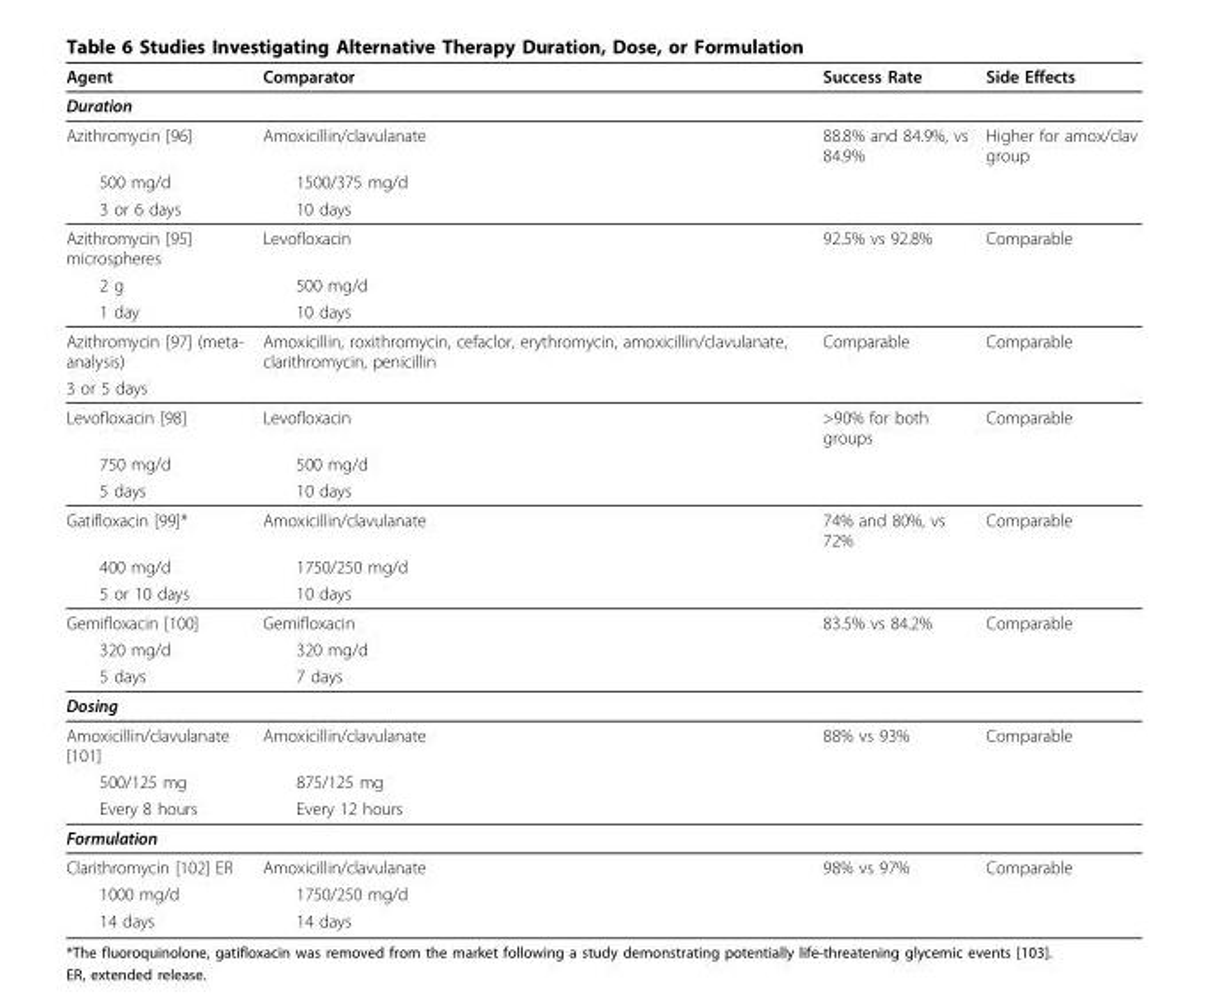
<table><thead><tr><td>Agent</td><td>Comparator</td><td>Success Rate</td><td>Side Effects</td></tr></thead><tbody><tr><td colspan="4">Duration</td></tr><tr><td>Azithromycin [96]</td><td>Amoxicillin/clavulanate</td><td>88.8% and 84.9%, vs 84.9%</td><td>Higher for amox/clav group</td></tr><tr><td>500 mg/d</td><td>1500/375 mg/d</td><td></td><td></td></tr><tr><td>3 or 6 days</td><td>10 days</td><td></td><td></td></tr><tr><td>Azithromycin [95] microspheres</td><td>Levofloxacin</td><td>92.5% vs 92.8%</td><td>Comparable</td></tr><tr><td>2 g</td><td>500 mg/d</td><td></td><td></td></tr><tr><td>1 day</td><td>10 days</td><td></td><td></td></tr><tr><td>Azithromycin [97] (meta- analysis)</td><td>Amoxicillin, roxithromycin, cefaclor, erythromycin, amoxicillin/clavulanate, clarithromycin, penicillin</td><td>Comparable</td><td>Comparable</td></tr><tr><td colspan="4">3 or 5 days</td></tr><tr><td>Levofloxacin [98]</td><td>Levofloxacin</td><td>&gt;90% for both groups</td><td>Comparable</td></tr><tr><td>750 mg/d</td><td>500 mg/d</td><td></td><td></td></tr><tr><td>5 days</td><td>10 days</td><td></td><td></td></tr><tr><td>Gatifloxacin [99]*</td><td>Amoxicillin/clavulanate</td><td>74% and 80%, vs 72%</td><td>Comparable</td></tr><tr><td>400 mg/d</td><td>1750/250 mg/d</td><td></td><td></td></tr><tr><td>5 or 10 days</td><td>10 days</td><td></td><td></td></tr><tr><td>Gemifloxacin [100]</td><td>Gemifloxacin</td><td>83.5% vs 84.2%</td><td>Comparable</td></tr><tr><td>320 mg/d</td><td>320 mg/d</td><td></td><td></td></tr><tr><td>5 days</td><td>7 days</td><td></td><td></td></tr><tr><td colspan="4">Dosing</td></tr><tr><td>Amoxicillin/clavulanate [101]</td><td>Amoxicillin/clavulanate</td><td>88% vs 93%</td><td>Comparable</td></tr><tr><td>500/125 mg</td><td>875/125 mg</td><td></td><td></td></tr><tr><td>Every 8 hours</td><td>Every 12 hours</td><td></td><td></td></tr><tr><td colspan="4">Formulation</td></tr><tr><td>Clarithromycin [102] ER</td><td>Amoxicillin/clavulanate</td><td>98% vs 97%</td><td>Comparable</td></tr><tr><td>1000 mg/d</td><td>1750/250 mg/d</td><td></td><td></td></tr><tr><td>14 days</td><td>14 days</td><td></td><td></td></tr></tbody></table>